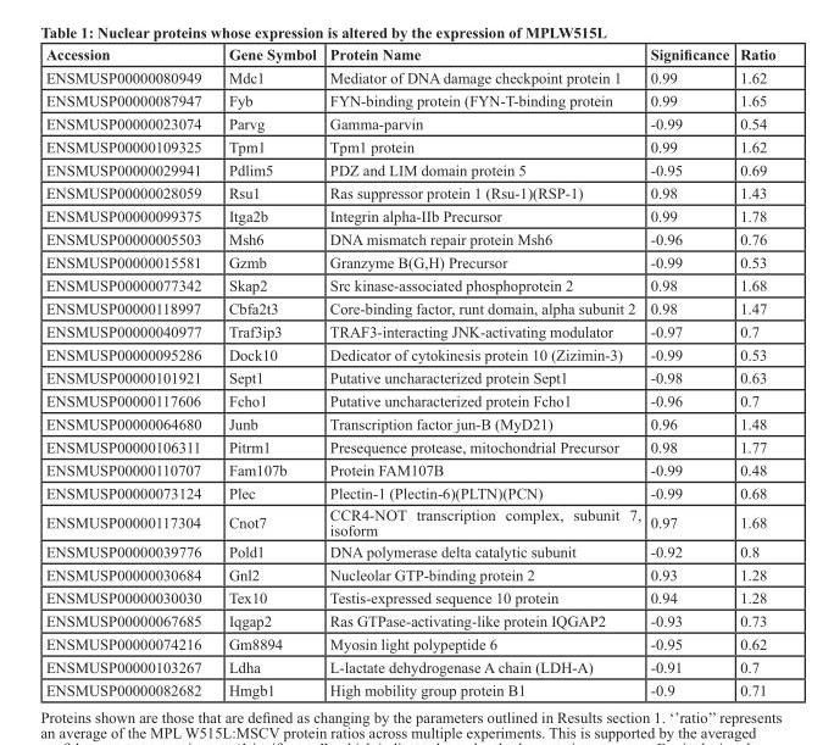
<table><thead><tr><td>Accession</td><td>Gene Symbol</td><td>Protein Name</td><td>Significance</td><td>Ratio</td></tr></thead><tbody><tr><td>ENSMUSP00000080949</td><td>Mdc1</td><td>Mediator of DNA damage checkpoint protein 1</td><td>0.99</td><td>1.62</td></tr><tr><td>ENSMUSP00000087947</td><td>Fyb</td><td>FYN-binding protein (FYN-T-binding protein</td><td>0.99</td><td>1.65</td></tr><tr><td>ENSMUSP00000023074</td><td>Parvg</td><td>Gamma-parvin</td><td>-0.99</td><td>0.54</td></tr><tr><td>ENSMUSP00000109325</td><td>Tpm1</td><td>Tpm1 protein</td><td>0.99</td><td>1.62</td></tr><tr><td>ENSMUSP00000029941</td><td>Pdlim5</td><td>PDZ and LIM domain protein 5</td><td>-0.95</td><td>0.69</td></tr><tr><td>ENSMUSP00000028059</td><td>Rsu1</td><td>Ras suppressor protein 1 (Rsu-1)(RSP-1)</td><td>0.98</td><td>1.43</td></tr><tr><td>ENSMUSP00000099375</td><td>Itga2b</td><td>Integrin alpha-IIb Precursor</td><td>0.99</td><td>1.78</td></tr><tr><td>ENSMUSP00000005503</td><td>Msh6</td><td>DNA mismatch repair protein Msh6</td><td>-0.96</td><td>0.76</td></tr><tr><td>ENSMUSP00000015581</td><td>Gzmb</td><td>Granzyme B(G,H) Precursor</td><td>-0.99</td><td>0.53</td></tr><tr><td>ENSMUSP00000077342</td><td>Skap2</td><td>Src kinase-associated phosphoprotein 2</td><td>0.98</td><td>1.68</td></tr><tr><td>ENSMUSP00000118997</td><td>Cbfa2t3</td><td>Core-binding factor, runt domain, alpha subunit 2</td><td>0.98</td><td>1.47</td></tr><tr><td>ENSMUSP00000040977</td><td>Traf3ip3</td><td>TRAF3-interacting JNK-activating modulator</td><td>-0.97</td><td>0.7</td></tr><tr><td>ENSMUSP00000095286</td><td>Dock10</td><td>Dedicator of cytokinesis protein 10 (Zizimin-3)</td><td>-0.99</td><td>0.53</td></tr><tr><td>ENSMUSP00000101921</td><td>Sept1</td><td>Putative uncharacterized protein Sept1</td><td>-0.98</td><td>0.63</td></tr><tr><td>ENSMUSP00000117606</td><td>Fcho1</td><td>Putative uncharacterized protein Fcho1</td><td>-0.96</td><td>0.7</td></tr><tr><td>ENSMUSP00000064680</td><td>Junb</td><td>Transcription factor jun-B (MyD21)</td><td>0.96</td><td>1.48</td></tr><tr><td>ENSMUSP00000106311</td><td>Pitrm1</td><td>Presequence protease, mitochondrial Precursor</td><td>0.98</td><td>1.77</td></tr><tr><td>ENSMUSP00000110707</td><td>Fam107b</td><td>Protein FAM107B</td><td>-0.99</td><td>0.48</td></tr><tr><td>ENSMUSP00000073124</td><td>Plec</td><td>Plectin-1 (Plectin-6)(PLTN)(PCN)</td><td>-0.99</td><td>0.68</td></tr><tr><td>ENSMUSP00000117304</td><td>Cnot7</td><td>CCR4-NOT transcription complex, subunit 7, isoform</td><td>0.97</td><td>1.68</td></tr><tr><td>ENSMUSP00000039776</td><td>Pold1</td><td>DNA polymerase delta catalytic subunit</td><td>-0.92</td><td>0.8</td></tr><tr><td>ENSMUSP00000030684</td><td>Gnl2</td><td>Nucleolar GTP-binding protein 2</td><td>0.93</td><td>1.28</td></tr><tr><td>ENSMUSP00000030030</td><td>Tex10</td><td>Testis-expressed sequence 10 protein</td><td>0.94</td><td>1.28</td></tr><tr><td>ENSMUSP00000067685</td><td>Iqgap2</td><td>Ras GTPase-activating-like protein IQGAP2</td><td>-0.93</td><td>0.73</td></tr><tr><td>ENSMUSP00000074216</td><td>Gm8894</td><td>Myosin light polypeptide 6</td><td>-0.95</td><td>0.62</td></tr><tr><td>ENSMUSP00000103267</td><td>Ldha</td><td>L-lactate dehydrogenase A chain (LDH-A)</td><td>-0.91</td><td>0.7</td></tr><tr><td>ENSMUSP00000082682</td><td>Hmgb1</td><td>High mobility group protein B1</td><td>-0.9</td><td>0.71</td></tr></tbody></table>